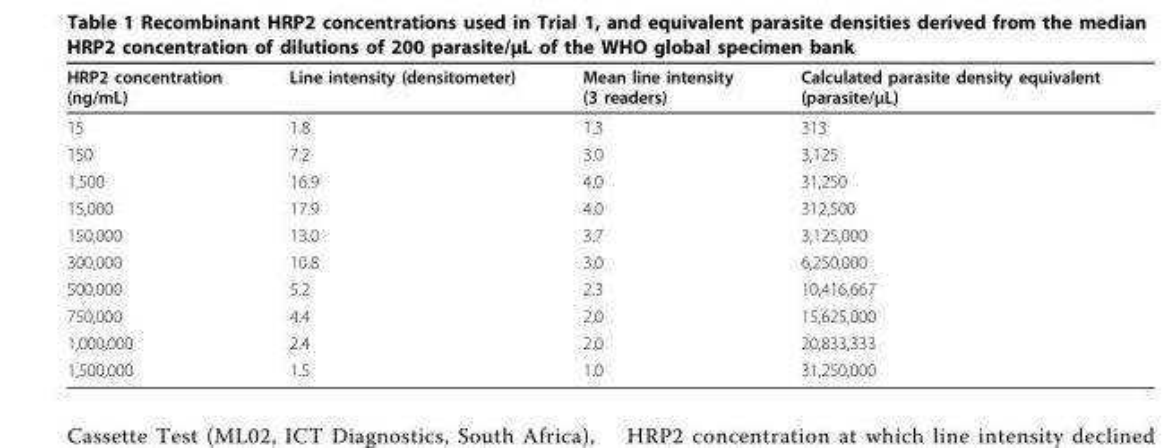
<table><thead><tr><td>HRP2 concentration (ng/mL)</td><td>Line intensity (densitometer)</td><td>Mean line intensity (3 readers)</td><td>Calculated parasite density equivalent (parasite/μL)</td></tr></thead><tbody><tr><td>15</td><td>1.8</td><td>1.3</td><td>313</td></tr><tr><td>150</td><td>7.2</td><td>3.0</td><td>3,125</td></tr><tr><td>1,500</td><td>16.9</td><td>4.0</td><td>31,250</td></tr><tr><td>15,000</td><td>17.9</td><td>4.0</td><td>312,500</td></tr><tr><td>150,000</td><td>13.0</td><td>3.7</td><td>3,125,000</td></tr><tr><td>300,000</td><td>10.8</td><td>3.0</td><td>6,250,000</td></tr><tr><td>500,000</td><td>5.2</td><td>2.3</td><td>10,416,667</td></tr><tr><td>750,000</td><td>4.4</td><td>2.0</td><td>15,625,000</td></tr><tr><td>1,000,000</td><td>2.4</td><td>2.0</td><td>20,833,333</td></tr><tr><td>1,500,000</td><td>1.5</td><td>1.0</td><td>31,250,000</td></tr></tbody></table>